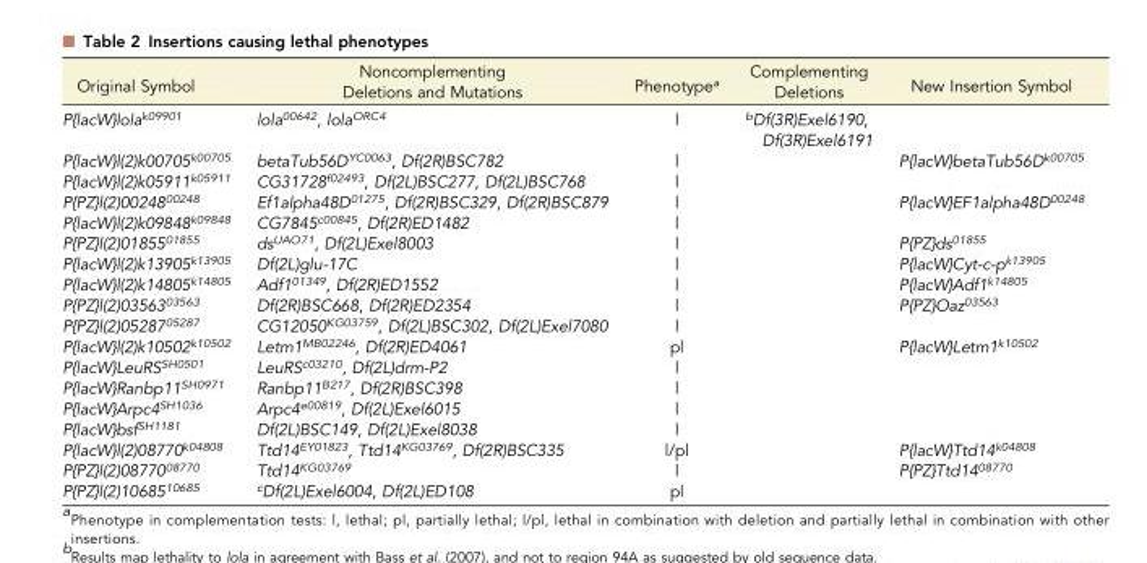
<table><thead><tr><td>Original Symbol</td><td>Noncomplementing Deletions and Mutations</td><td>Phenotype<sup>a</sup></td><td>Complementing Deletions</td><td>New Insertion Symbol</td></tr></thead><tbody><tr><td>P{lacW}lola<sup>k09901</sup></td><td>lola<sup>00642</sup>, lola<sup>ORC4</sup></td><td>l</td><td><sup>b</sup>Df(3R)Exel6190, Df(3R)Exel6191</td><td></td></tr><tr><td>P{lacW}l(2)k00705<sup>k00705</sup></td><td>betaTub56D<sup>YC0063</sup>, Df(2R)BSC782</td><td>l</td><td></td><td>P{lacW}betaTub56D<sup>k00705</sup></td></tr><tr><td>P{lacW}l(2)k05911<sup>k05911</sup></td><td>CG31728<sup>f02493</sup>, Df(2L)BSC277, Df(2L)BSC768</td><td>l</td><td></td><td></td></tr><tr><td>P{PZ}l(2)00248<sup>00248</sup></td><td>Ef1alpha48D<sup>01275</sup>, Df(2R)BSC329, Df(2R)BSC879</td><td>l</td><td></td><td>P{lacW}EF1alpha48D<sup>00248</sup></td></tr><tr><td>P{lacW}l(2)k09848<sup>k09848</sup></td><td>CG7845<sup>c00845</sup>, Df(2R)ED1482</td><td>l</td><td></td><td></td></tr><tr><td>P{PZ}l(2)01855<sup>01855</sup></td><td>ds<sup>UAO71</sup>, Df(2L)Exel8003</td><td>l</td><td></td><td>P{PZ}ds<sup>01855</sup></td></tr><tr><td>P{lacW}l(2)k13905<sup>k13905</sup></td><td>Df(2L)glu-17C</td><td>l</td><td></td><td>P{lacW}Cyt-c-p<sup>k13905</sup></td></tr><tr><td>P{lacW}l(2)k14805<sup>k14805</sup></td><td>Adf1<sup>01349</sup>, Df(2R)ED1552</td><td>l</td><td></td><td>P{lacW}Adf1<sup>k14805</sup></td></tr><tr><td>P{PZ}l(2)03563<sup>03563</sup></td><td>Df(2R)BSC668, Df(2R)ED2354</td><td>l</td><td></td><td>P{PZ}Oaz<sup>03563</sup></td></tr><tr><td>P{PZ}l(2)05287<sup>05287</sup></td><td>CG12050<sup>KG03759</sup>, Df(2L)BSC302, Df(2L)Exel7080</td><td>l</td><td></td><td></td></tr><tr><td>P{lacW}l(2)k10502<sup>k10502</sup></td><td>Letm1<sup>MB02246</sup>, Df(2R)ED4061</td><td>pl</td><td></td><td>P{lacW}Letm1<sup>k10502</sup></td></tr><tr><td>P{lacW}LeuRS<sup>SH0501</sup></td><td>LeuRS<sup>c03210</sup>, Df(2L)drm-P2</td><td>l</td><td></td><td></td></tr><tr><td>P{lacW}Ranbp11<sup>SH0971</sup></td><td>Ranbp11<sup>B217</sup>, Df(2R)BSC398</td><td>l</td><td></td><td></td></tr><tr><td>P{lacW}Arpc4<sup>SH1036</sup></td><td>Arpc4<sup>e00819</sup>, Df(2L)Exel6015</td><td>l</td><td></td><td></td></tr><tr><td>P{lacW}bsf<sup>SH1181</sup></td><td>Df(2L)BSC149, Df(2L)Exel8038</td><td>l</td><td></td><td></td></tr><tr><td>P{lacW}l(2)08770<sup>k04808</sup></td><td>Ttd14<sup>EY01823</sup>, Ttd14<sup>KG03769</sup>, Df(2R)BSC335</td><td>l/pl</td><td></td><td>P{lacW}Ttd14<sup>k04808</sup></td></tr><tr><td>P{PZ}l(2)08770<sup>08770</sup></td><td>Ttd14<sup>KG03769</sup></td><td>l</td><td></td><td>P{PZ}Ttd14<sup>08770</sup></td></tr><tr><td>P{PZ}l(2)10685<sup>10685</sup></td><td><sup>c</sup>Df(2L)Exel6004, Df(2L)ED108</td><td>pl</td><td></td><td></td></tr></tbody></table>